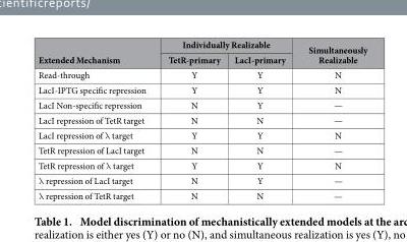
<table><thead><tr><td rowspan="2">Extended Mechanism</td><td colspan="2">Individually Realizable</td><td rowspan="2">Simultaneously Realizable</td></tr><tr><td>TetR-primary</td><td>LacI-primary</td></tr></thead><tbody><tr><td>Read-through</td><td>Y</td><td>Y</td><td>N</td></tr><tr><td>LacI-IPTG specific repression</td><td>Y</td><td>Y</td><td>N</td></tr><tr><td>LacI Non-specific repression</td><td>N</td><td>Y</td><td>—</td></tr><tr><td>LacI repression of TetR target</td><td>N</td><td>N</td><td>—</td></tr><tr><td>LacI repression of λ target</td><td>Y</td><td>Y</td><td>N</td></tr><tr><td>TetR repression of LacI target</td><td>N</td><td>N</td><td>—</td></tr><tr><td>TetR repression of λ target</td><td>Y</td><td>Y</td><td>N</td></tr><tr><td>λ repression of LacI target</td><td>N</td><td>Y</td><td>—</td></tr><tr><td>λ repression of TetR target</td><td>N</td><td>N</td><td>—</td></tr></tbody></table>